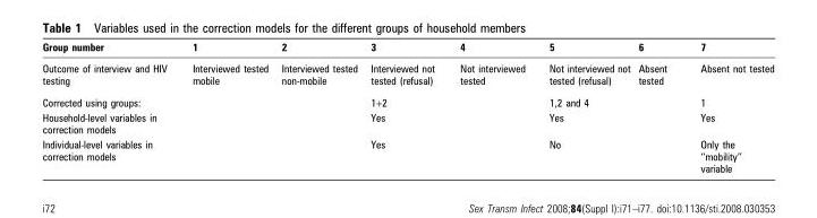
<table><thead><tr><td>Group number</td><td>1</td><td>2</td><td>3</td><td>4</td><td>5</td><td>6</td><td>7</td></tr></thead><tbody><tr><td>Outcome of interview and HIV testing</td><td>Interviewed tested mobile</td><td>Interviewed tested non-mobile</td><td>Interviewed not tested (refusal)</td><td>Not interviewed tested</td><td>Not interviewed not tested (refusal)</td><td>Absent tested</td><td>Absent not tested</td></tr><tr><td>Corrected using groups:</td><td></td><td></td><td>1+2</td><td></td><td>1,2 and 4</td><td></td><td>1</td></tr><tr><td>Household-level variables in correction models</td><td></td><td></td><td>Yes</td><td></td><td>Yes</td><td></td><td>Yes</td></tr><tr><td>Individual-level variables in correction models</td><td></td><td></td><td>Yes</td><td></td><td>No</td><td></td><td>Only the ‘‘mobility’’ variable</td></tr></tbody></table>